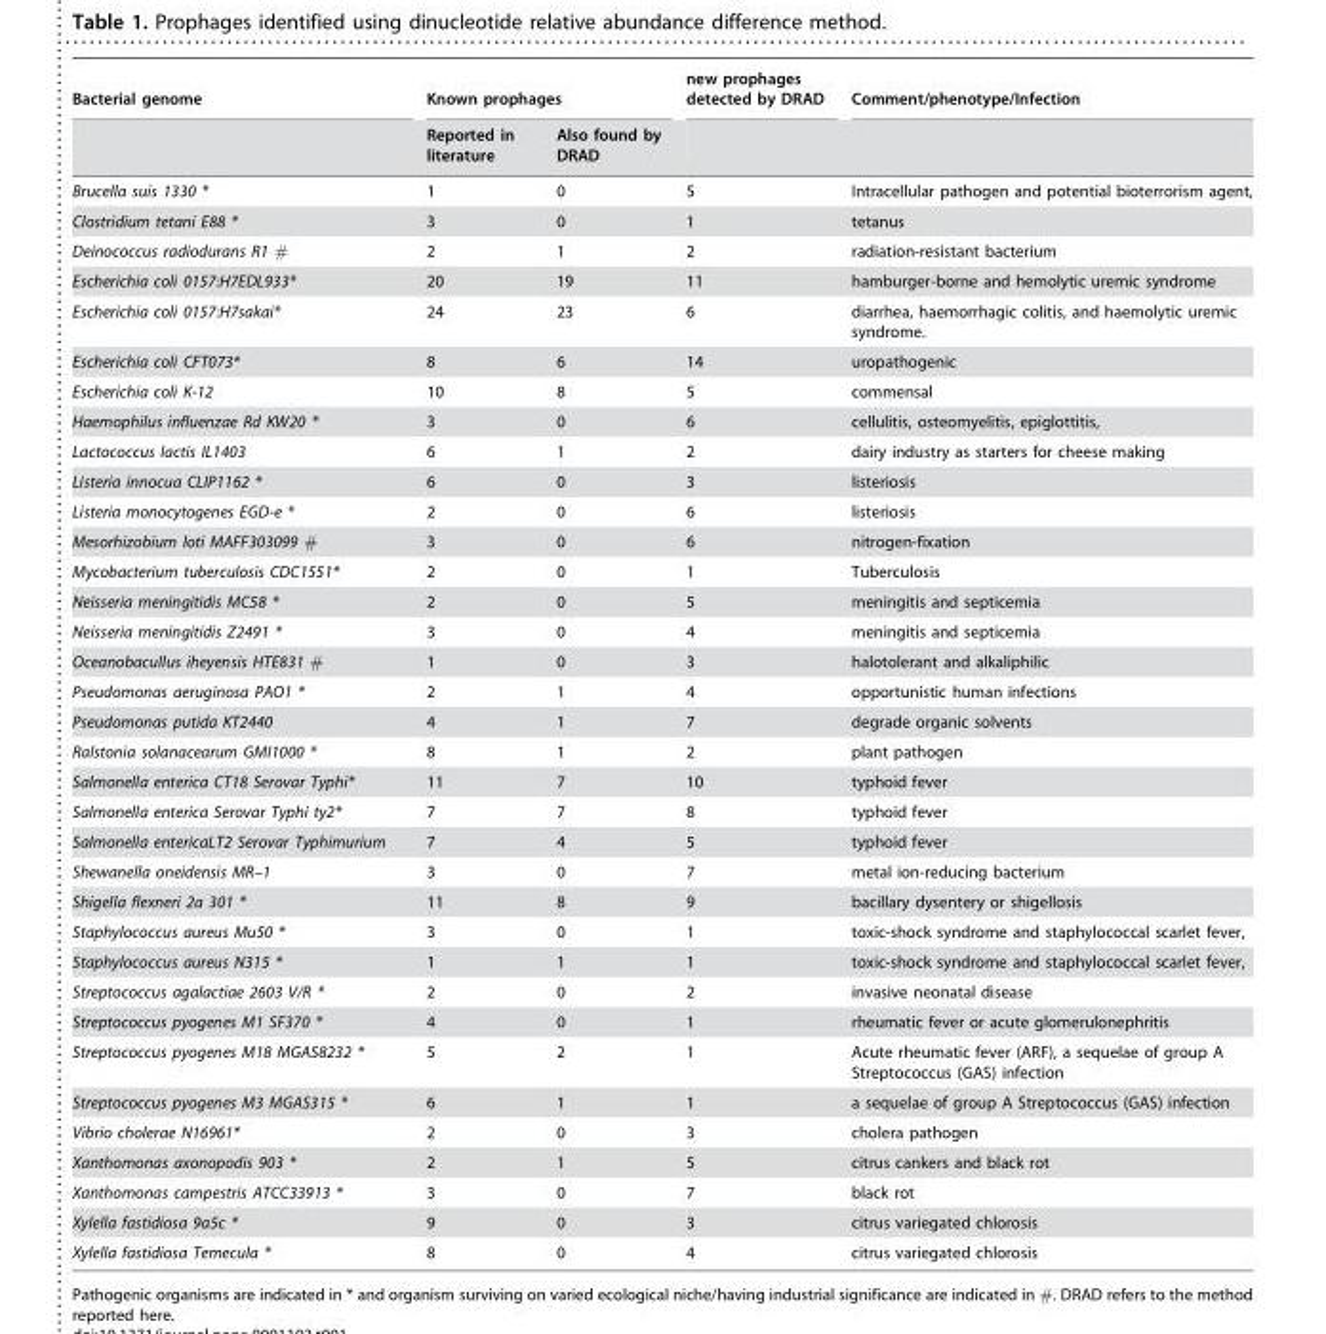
<table><thead><tr><td rowspan="2">Bacterial genome</td><td colspan="2">Known prophages</td><td rowspan="2">new prophages detected by DRAD</td><td rowspan="2">Comment/phenotype/Infection</td></tr><tr><td>Reported in literature</td><td>Also found by DRAD</td></tr></thead><tbody><tr><td>Brucella suis 1330 *</td><td>1</td><td>0</td><td>5</td><td>Intracellular pathogen and potential bioterrorism agent,</td></tr><tr><td>Clostridium tetani E88 *</td><td>3</td><td>0</td><td>1</td><td>tetanus</td></tr><tr><td>Deinococcus radiodurans R1 #</td><td>2</td><td>1</td><td>2</td><td>radiation-resistant bacterium</td></tr><tr><td>Escherichia coli 0157:H7EDL933*</td><td>20</td><td>19</td><td>11</td><td>hamburger-borne and hemolytic uremic syndrome</td></tr><tr><td>Escherichia coli 0157:H7sakai*</td><td>24</td><td>23</td><td>6</td><td>diarrhea, haemorrhagic colitis, and haemolytic uremic syndrome.</td></tr><tr><td>Escherichia coli CFT073*</td><td>8</td><td>6</td><td>14</td><td>uropathogenic</td></tr><tr><td>Escherichia coli K-12</td><td>10</td><td>8</td><td>5</td><td>commensal</td></tr><tr><td>Haemophilus influenzae Rd KW20 *</td><td>3</td><td>0</td><td>6</td><td>cellulitis, osteomyelitis, epiglottitis,</td></tr><tr><td>Lactococcus lactis IL1403</td><td>6</td><td>1</td><td>2</td><td>dairy industry as starters for cheese making</td></tr><tr><td>Listeria innocua CLIP1162 *</td><td>6</td><td>0</td><td>3</td><td>listeriosis</td></tr><tr><td>Listeria monocytogenes EGD-e *</td><td>2</td><td>0</td><td>6</td><td>listeriosis</td></tr><tr><td>Mesorhizobium loti MAFF303099 #</td><td>3</td><td>0</td><td>6</td><td>nitrogen-fixation</td></tr><tr><td>Mycobacterium tuberculosis CDC1551*</td><td>2</td><td>0</td><td>1</td><td>Tuberculosis</td></tr><tr><td>Neisseria meningitidis MC58 *</td><td>2</td><td>0</td><td>5</td><td>meningitis and septicemia</td></tr><tr><td>Neisseria meningitidis Z2491 *</td><td>3</td><td>0</td><td>4</td><td>meningitis and septicemia</td></tr><tr><td>Oceanobacullus iheyensis HTE831 #</td><td>1</td><td>0</td><td>3</td><td>halotolerant and alkaliphilic</td></tr><tr><td>Pseudomonas aeruginosa PAO1 *</td><td>2</td><td>1</td><td>4</td><td>opportunistic human infections</td></tr><tr><td>Pseudomonas putida KT2440</td><td>4</td><td>1</td><td>7</td><td>degrade organic solvents</td></tr><tr><td>Ralstonia solanacearum GMI1000 *</td><td>8</td><td>1</td><td>2</td><td>plant pathogen</td></tr><tr><td>Salmonella enterica CT18 Serovar Typhi*</td><td>11</td><td>7</td><td>10</td><td>typhoid fever</td></tr><tr><td>Salmonella enterica Serovar Typhi ty2*</td><td>7</td><td>7</td><td>8</td><td>typhoid fever</td></tr><tr><td>Salmonella entericaLT2 Serovar Typhimurium</td><td>7</td><td>4</td><td>5</td><td>typhoid fever</td></tr><tr><td>Shewanella oneidensis MR–1</td><td>3</td><td>0</td><td>7</td><td>metal ion-reducing bacterium</td></tr><tr><td>Shigella flexneri 2a 301 *</td><td>11</td><td>8</td><td>9</td><td>bacillary dysentery or shigellosis</td></tr><tr><td>Staphylococcus aureus Mu50 *</td><td>3</td><td>0</td><td>1</td><td>toxic-shock syndrome and staphylococcal scarlet fever,</td></tr><tr><td>Staphylococcus aureus N315 *</td><td>1</td><td>1</td><td>1</td><td>toxic-shock syndrome and staphylococcal scarlet fever,</td></tr><tr><td>Streptococcus agalactiae 2603 V/R *</td><td>2</td><td>0</td><td>2</td><td>invasive neonatal disease</td></tr><tr><td>Streptococcus pyogenes M1 SF370 *</td><td>4</td><td>0</td><td>1</td><td>rheumatic fever or acute glomerulonephritis</td></tr><tr><td>Streptococcus pyogenes M18 MGAS8232 *</td><td>5</td><td>2</td><td>1</td><td>Acute rheumatic fever (ARF), a sequelae of group A Streptococcus (GAS) infection</td></tr><tr><td>Streptococcus pyogenes M3 MGAS315 *</td><td>6</td><td>1</td><td>1</td><td>a sequelae of group A Streptococcus (GAS) infection</td></tr><tr><td>Vibrio cholerae N16961*</td><td>2</td><td>0</td><td>3</td><td>cholera pathogen</td></tr><tr><td>Xanthomonas axonopodis 903 *</td><td>2</td><td>1</td><td>5</td><td>citrus cankers and black rot</td></tr><tr><td>Xanthomonas campestris ATCC33913 *</td><td>3</td><td>0</td><td>7</td><td>black rot</td></tr><tr><td>Xylella fastidiosa 9a5c *</td><td>9</td><td>0</td><td>3</td><td>citrus variegated chlorosis</td></tr><tr><td>Xylella fastidiosa Temecula *</td><td>8</td><td>0</td><td>4</td><td>citrus variegated chlorosis</td></tr></tbody></table>